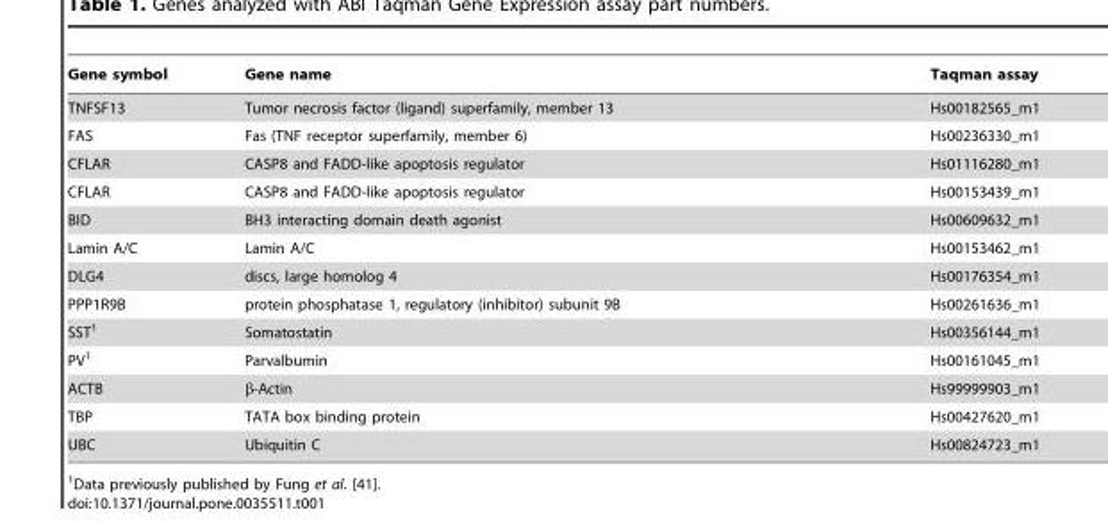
<table><thead><tr><td>Gene symbol</td><td>Gene name</td><td>Taqman assay</td></tr></thead><tbody><tr><td>TNFSF13</td><td>Tumor necrosis factor (ligand) superfamily, member 13</td><td>Hs00182565_m1</td></tr><tr><td>FAS</td><td>Fas (TNF receptor superfamily, member 6)</td><td>Hs00236330_m1</td></tr><tr><td>CFLAR</td><td>CASP8 and FADD-like apoptosis regulator</td><td>Hs01116280_m1</td></tr><tr><td>CFLAR</td><td>CASP8 and FADD-like apoptosis regulator</td><td>Hs00153439_m1</td></tr><tr><td>BID</td><td>BH3 interacting domain death agonist</td><td>Hs00609632_m1</td></tr><tr><td>Lamin A/C</td><td>Lamin A/C</td><td>Hs00153462_m1</td></tr><tr><td>DLG4</td><td>discs, large homolog 4</td><td>Hs00176354_m1</td></tr><tr><td>PPP1R9B</td><td>protein phosphatase 1, regulatory (inhibitor) subunit 9B</td><td>Hs00261636_m1</td></tr><tr><td>SST<sup>1</sup></td><td>Somatostatin</td><td>Hs00356144_m1</td></tr><tr><td>PV<sup>1</sup></td><td>Parvalbumin</td><td>Hs00161045_m1</td></tr><tr><td>ACTB</td><td>β-Actin</td><td>Hs99999903_m1</td></tr><tr><td>TBP</td><td>TATA box binding protein</td><td>Hs00427620_m1</td></tr><tr><td>UBC</td><td>Ubiquitin C</td><td>Hs00824723_m1</td></tr></tbody></table>